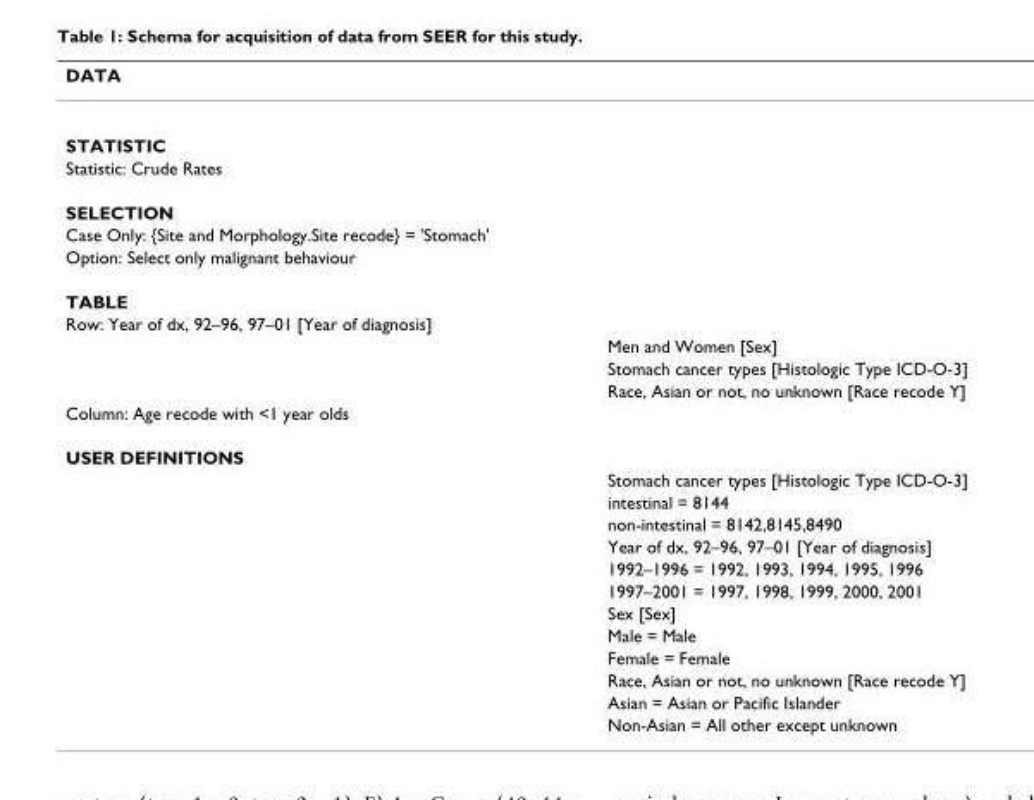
<table><thead><tr><td>DATA</td><td></td></tr></thead><tbody><tr><td colspan="2">STATISTIC</td></tr><tr><td colspan="2">Statistic: Crude Rates</td></tr><tr><td colspan="2">SELECTION</td></tr><tr><td colspan="2">Case Only: {Site and Morphology.Site recode} = &#x27;Stomach&#x27;</td></tr><tr><td colspan="2">Option: Select only malignant behaviour</td></tr><tr><td colspan="2">TABLE</td></tr><tr><td colspan="2">Row: Year of dx, 92–96, 97–01 [Year of diagnosis]</td></tr><tr><td></td><td>Men and Women [Sex]</td></tr><tr><td></td><td>Stomach cancer types [Histologic Type ICD-O-3]</td></tr><tr><td></td><td>Race, Asian or not, no unknown [Race recode Y]</td></tr><tr><td colspan="2">Column: Age recode with &lt;1 year olds</td></tr><tr><td colspan="2">USER DEFINITIONS</td></tr><tr><td></td><td>Stomach cancer types [Histologic Type ICD-O-3]</td></tr><tr><td></td><td>intestinal = 8144</td></tr><tr><td></td><td>non-intestinal = 8142,8145,8490</td></tr><tr><td></td><td>Year of dx, 92–96, 97–01 [Year of diagnosis]</td></tr><tr><td></td><td>1992–1996 = 1992, 1993, 1994, 1995, 1996</td></tr><tr><td></td><td>1997–2001 = 1997, 1998, 1999, 2000, 2001</td></tr><tr><td></td><td>Sex [Sex]</td></tr><tr><td></td><td>Male = Male</td></tr><tr><td></td><td>Female = Female</td></tr><tr><td></td><td>Race, Asian or not, no unknown [Race recode Y]</td></tr><tr><td></td><td>Asian = Asian or Pacific Islander</td></tr><tr><td></td><td>Non-Asian = All other except unknown</td></tr></tbody></table>